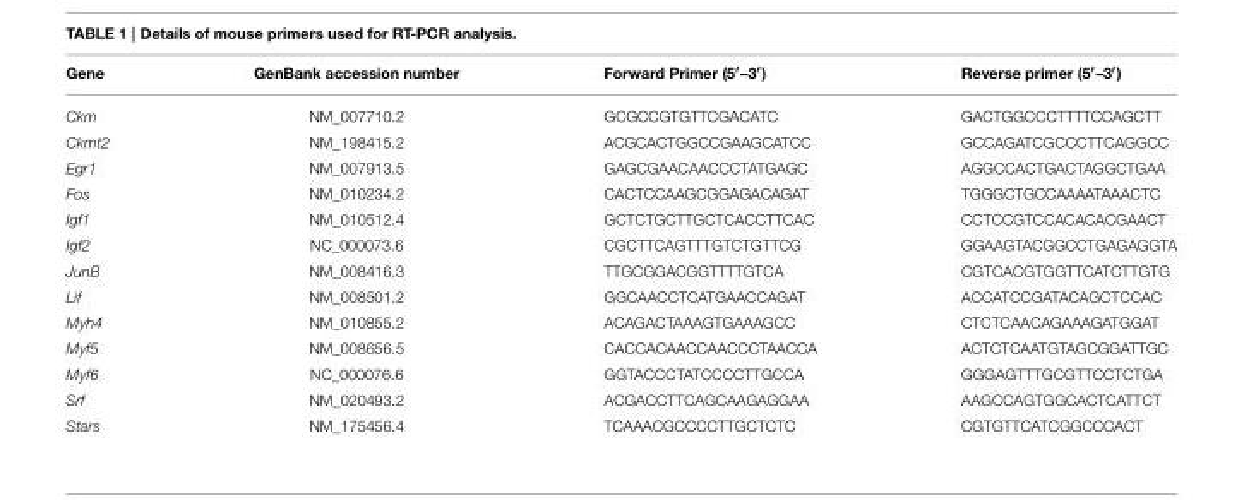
<table><thead><tr><td>Gene</td><td>GenBank accession number</td><td>Forward Primer (5′–3′)</td><td>Reverse primer (5′–3′)</td></tr></thead><tbody><tr><td>Ckm</td><td>NM_007710.2</td><td>GCGCCGTGTTCGACATC</td><td>GACTGGCCCTTTTCCAGCTT</td></tr><tr><td>Ckmt2</td><td>NM_198415.2</td><td>ACGCACTGGCCGAAGCATCC</td><td>GCCAGATCGCCCTTCAGGCC</td></tr><tr><td>Egr1</td><td>NM_007913.5</td><td>GAGCGAACAACCCTATGAGC</td><td>AGGCCACTGACTAGGCTGAA</td></tr><tr><td>Fos</td><td>NM_010234.2</td><td>CACTCCAAGCGGAGACAGAT</td><td>TGGGCTGCCAAAATAAACTC</td></tr><tr><td>Igf1</td><td>NM_010512.4</td><td>GCTCTGCTTGCTCACCTTCAC</td><td>CCTCCGTCCACACACGAACT</td></tr><tr><td>Igf2</td><td>NC_000073.6</td><td>CGCTTCAGTTTGTCTGTTCG</td><td>GGAAGTACGGCCTGAGAGGTA</td></tr><tr><td>JunB</td><td>NM_008416.3</td><td>TTGCGGACGGTTTTGTCA</td><td>CGTCACGTGGTTCATCTTGTG</td></tr><tr><td>Lif</td><td>NM_008501.2</td><td>GGCAACCTCATGAACCAGAT</td><td>ACCATCCGATACAGCTCCAC</td></tr><tr><td>Myh4</td><td>NM_010855.2</td><td>ACAGACTAAAGTGAAAGCC</td><td>CTCTCAACAGAAAGATGGAT</td></tr><tr><td>Myf5</td><td>NM_008656.5</td><td>CACCACAACCAACCCTAACCA</td><td>ACTCTCAATGTAGCGGATTGC</td></tr><tr><td>Myf6</td><td>NC_000076.6</td><td>GGTACCCTATCCCCTTGCCA</td><td>GGGAGTTTGCGTTCCTCTGA</td></tr><tr><td>Srf</td><td>NM_020493.2</td><td>ACGACCTTCAGCAAGAGGAA</td><td>AAGCCAGTGGCACTCATTCT</td></tr><tr><td>Stars</td><td>NM_175456.4</td><td>TCAAACGCCCCTTGCTCTC</td><td>CGTGTTCATCGGCCCACT</td></tr></tbody></table>